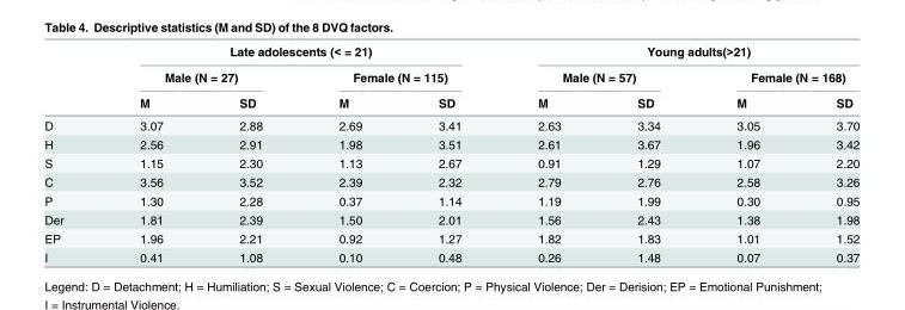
<table><thead><tr><td rowspan="3"></td><td colspan="4">Late adolescents (&lt; = 21)</td><td colspan="4">Young adults(&gt;21)</td></tr><tr><td colspan="2">Male (N = 27)</td><td colspan="2">Female (N = 115)</td><td colspan="2">Male (N = 57)</td><td colspan="2">Female (N = 168)</td></tr><tr><td>M</td><td>SD</td><td>M</td><td>SD</td><td>M</td><td>SD</td><td>M</td><td>SD</td></tr></thead><tbody><tr><td>D</td><td>3.07</td><td>2.88</td><td>2.69</td><td>3.41</td><td>2.63</td><td>3.34</td><td>3.05</td><td>3.70</td></tr><tr><td>H</td><td>2.56</td><td>2.91</td><td>1.98</td><td>3.51</td><td>2.61</td><td>3.67</td><td>1.96</td><td>3.42</td></tr><tr><td>S</td><td>1.15</td><td>2.30</td><td>1.13</td><td>2.67</td><td>0.91</td><td>1.29</td><td>1.07</td><td>2.20</td></tr><tr><td>C</td><td>3.56</td><td>3.52</td><td>2.39</td><td>2.32</td><td>2.79</td><td>2.76</td><td>2.58</td><td>3.26</td></tr><tr><td>P</td><td>1.30</td><td>2.28</td><td>0.37</td><td>1.14</td><td>1.19</td><td>1.99</td><td>0.30</td><td>0.95</td></tr><tr><td>Der</td><td>1.81</td><td>2.39</td><td>1.50</td><td>2.01</td><td>1.56</td><td>2.43</td><td>1.38</td><td>1.98</td></tr><tr><td>EP</td><td>1.96</td><td>2.21</td><td>0.92</td><td>1.27</td><td>1.82</td><td>1.83</td><td>1.01</td><td>1.52</td></tr><tr><td>I</td><td>0.41</td><td>1.08</td><td>0.10</td><td>0.48</td><td>0.26</td><td>1.48</td><td>0.07</td><td>0.37</td></tr></tbody></table>